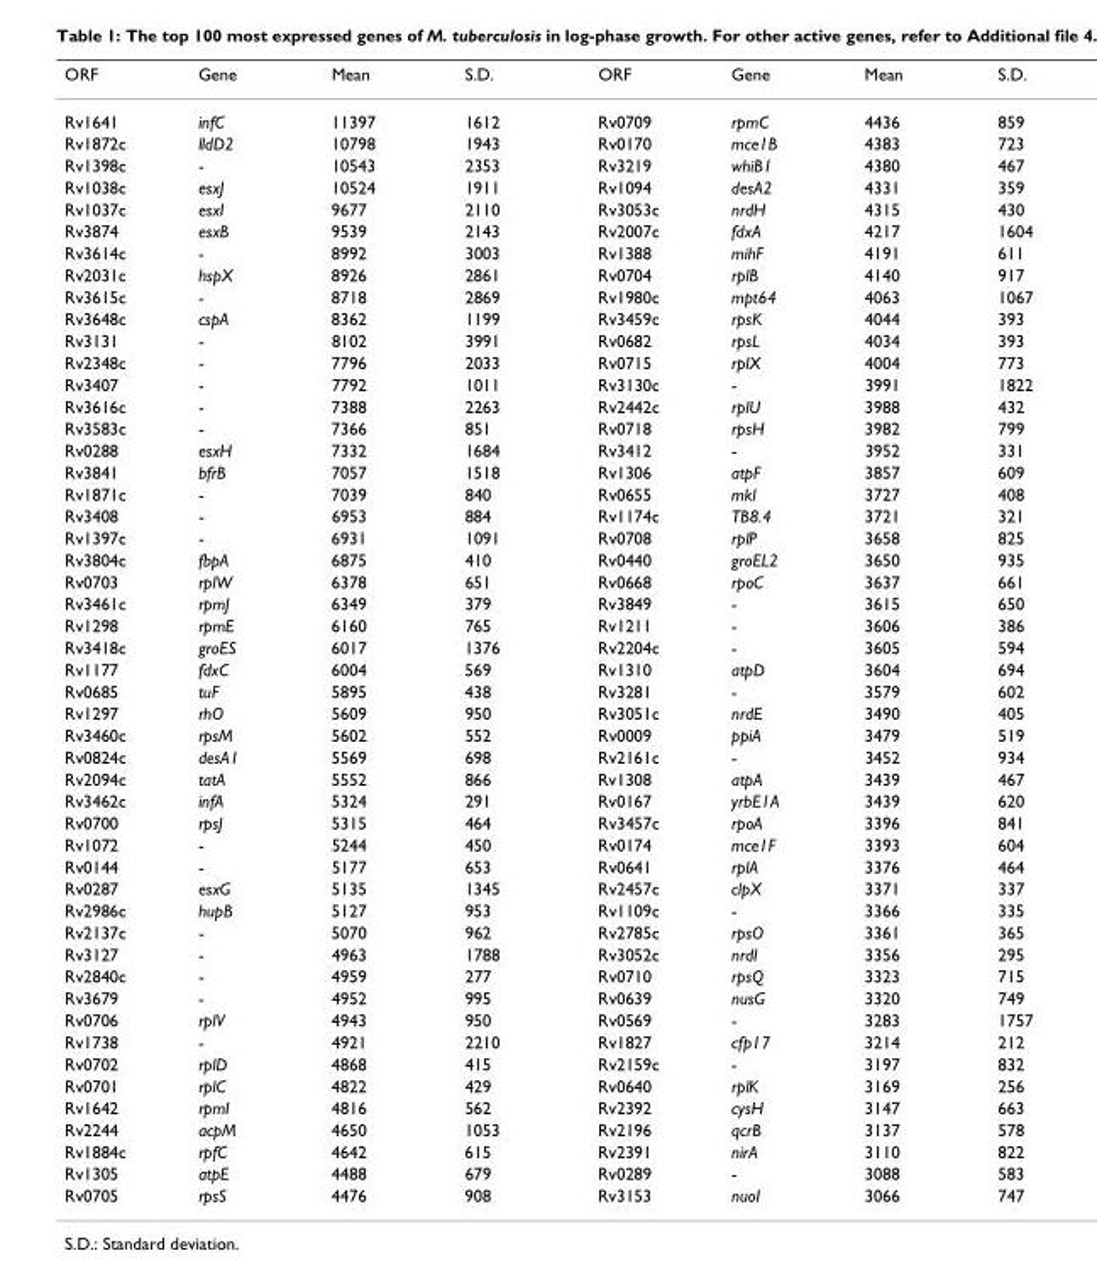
<table><thead><tr><td>ORF</td><td>Gene</td><td>Mean</td><td>S.D.</td><td>ORF</td><td>Gene</td><td>Mean</td><td>S.D.</td></tr></thead><tbody><tr><td>Rv1641</td><td>infC</td><td>11397</td><td>1612</td><td>Rv0709</td><td>rpmC</td><td>4436</td><td>859</td></tr><tr><td>Rv1872c</td><td>lldD2</td><td>10798</td><td>1943</td><td>Rv0170</td><td>mce1B</td><td>4383</td><td>723</td></tr><tr><td>Rv1398c</td><td>-</td><td>10543</td><td>2353</td><td>Rv3219</td><td>whiB1</td><td>4380</td><td>467</td></tr><tr><td>Rv1038c</td><td>esxJ</td><td>10524</td><td>1911</td><td>Rv1094</td><td>desA2</td><td>4331</td><td>359</td></tr><tr><td>Rv1037c</td><td>esxI</td><td>9677</td><td>2110</td><td>Rv3053c</td><td>nrdH</td><td>4315</td><td>430</td></tr><tr><td>Rv3874</td><td>esxB</td><td>9539</td><td>2143</td><td>Rv2007c</td><td>fdxA</td><td>4217</td><td>1604</td></tr><tr><td>Rv3614c</td><td>-</td><td>8992</td><td>3003</td><td>Rv1388</td><td>mihF</td><td>4191</td><td>611</td></tr><tr><td>Rv2031c</td><td>hspX</td><td>8926</td><td>2861</td><td>Rv0704</td><td>rplB</td><td>4140</td><td>917</td></tr><tr><td>Rv3615c</td><td>-</td><td>8718</td><td>2869</td><td>Rv1980c</td><td>mpt64</td><td>4063</td><td>1067</td></tr><tr><td>Rv3648c</td><td>cspA</td><td>8362</td><td>1199</td><td>Rv3459c</td><td>rpsK</td><td>4044</td><td>393</td></tr><tr><td>Rv3131</td><td>-</td><td>8102</td><td>3991</td><td>Rv0682</td><td>rpsL</td><td>4034</td><td>393</td></tr><tr><td>Rv2348c</td><td>-</td><td>7796</td><td>2033</td><td>Rv0715</td><td>rplX</td><td>4004</td><td>773</td></tr><tr><td>Rv3407</td><td>-</td><td>7792</td><td>1011</td><td>Rv3130c</td><td>-</td><td>3991</td><td>1822</td></tr><tr><td>Rv3616c</td><td>-</td><td>7388</td><td>2263</td><td>Rv2442c</td><td>rplU</td><td>3988</td><td>432</td></tr><tr><td>Rv3583c</td><td>-</td><td>7366</td><td>851</td><td>Rv0718</td><td>rpsH</td><td>3982</td><td>799</td></tr><tr><td>Rv0288</td><td>esxH</td><td>7332</td><td>1684</td><td>Rv3412</td><td>-</td><td>3952</td><td>331</td></tr><tr><td>Rv3841</td><td>bfrB</td><td>7057</td><td>1518</td><td>Rv1306</td><td>atpF</td><td>3857</td><td>609</td></tr><tr><td>Rv1871c</td><td>-</td><td>7039</td><td>840</td><td>Rv0655</td><td>mkl</td><td>3727</td><td>408</td></tr><tr><td>Rv3408</td><td>-</td><td>6953</td><td>884</td><td>Rv1174c</td><td>TB8.4</td><td>3721</td><td>321</td></tr><tr><td>Rv1397c</td><td>-</td><td>6931</td><td>1091</td><td>Rv0708</td><td>rplP</td><td>3658</td><td>825</td></tr><tr><td>Rv3804c</td><td>fbpA</td><td>6875</td><td>410</td><td>Rv0440</td><td>groEL2</td><td>3650</td><td>935</td></tr><tr><td>Rv0703</td><td>rplW</td><td>6378</td><td>651</td><td>Rv0668</td><td>rpoC</td><td>3637</td><td>661</td></tr><tr><td>Rv3461c</td><td>rpmJ</td><td>6349</td><td>379</td><td>Rv3849</td><td>-</td><td>3615</td><td>650</td></tr><tr><td>Rv1298</td><td>rpmE</td><td>6160</td><td>765</td><td>Rv1211</td><td>-</td><td>3606</td><td>386</td></tr><tr><td>Rv3418c</td><td>groES</td><td>6017</td><td>1376</td><td>Rv2204c</td><td>-</td><td>3605</td><td>594</td></tr><tr><td>Rv1177</td><td>fdxC</td><td>6004</td><td>569</td><td>Rv1310</td><td>atpD</td><td>3604</td><td>694</td></tr><tr><td>Rv0685</td><td>tuF</td><td>5895</td><td>438</td><td>Rv3281</td><td>-</td><td>3579</td><td>602</td></tr><tr><td>Rv1297</td><td>rhO</td><td>5609</td><td>950</td><td>Rv3051c</td><td>nrdE</td><td>3490</td><td>405</td></tr><tr><td>Rv3460c</td><td>rpsM</td><td>5602</td><td>552</td><td>Rv0009</td><td>ppiA</td><td>3479</td><td>519</td></tr><tr><td>Rv0824c</td><td>desA1</td><td>5569</td><td>698</td><td>Rv2161c</td><td>-</td><td>3452</td><td>934</td></tr><tr><td>Rv2094c</td><td>tatA</td><td>5552</td><td>866</td><td>Rv1308</td><td>atpA</td><td>3439</td><td>467</td></tr><tr><td>Rv3462c</td><td>infA</td><td>5324</td><td>291</td><td>Rv0167</td><td>yrbE1A</td><td>3439</td><td>620</td></tr><tr><td>Rv0700</td><td>rpsJ</td><td>5315</td><td>464</td><td>Rv3457c</td><td>rpoA</td><td>3396</td><td>841</td></tr><tr><td>Rv1072</td><td>-</td><td>5244</td><td>450</td><td>Rv0174</td><td>mce1F</td><td>3393</td><td>604</td></tr><tr><td>Rv0144</td><td>-</td><td>5177</td><td>653</td><td>Rv0641</td><td>rplA</td><td>3376</td><td>464</td></tr><tr><td>Rv0287</td><td>esxG</td><td>5135</td><td>1345</td><td>Rv2457c</td><td>clpX</td><td>3371</td><td>337</td></tr><tr><td>Rv2986c</td><td>hupB</td><td>5127</td><td>953</td><td>Rv1109c</td><td>-</td><td>3366</td><td>335</td></tr><tr><td>Rv2137c</td><td>-</td><td>5070</td><td>962</td><td>Rv2785c</td><td>rpsO</td><td>3361</td><td>365</td></tr><tr><td>Rv3127</td><td>-</td><td>4963</td><td>1788</td><td>Rv3052c</td><td>nrdI</td><td>3356</td><td>295</td></tr><tr><td>Rv2840c</td><td>-</td><td>4959</td><td>277</td><td>Rv0710</td><td>rpsQ</td><td>3323</td><td>715</td></tr><tr><td>Rv3679</td><td>-</td><td>4952</td><td>995</td><td>Rv0639</td><td>nusG</td><td>3320</td><td>749</td></tr><tr><td>Rv0706</td><td>rplV</td><td>4943</td><td>950</td><td>Rv0569</td><td>-</td><td>3283</td><td>1757</td></tr><tr><td>Rv1738</td><td>-</td><td>4921</td><td>2210</td><td>Rv1827</td><td>cfp17</td><td>3214</td><td>212</td></tr><tr><td>Rv0702</td><td>rplD</td><td>4868</td><td>415</td><td>Rv2159c</td><td>-</td><td>3197</td><td>832</td></tr><tr><td>Rv0701</td><td>rplC</td><td>4822</td><td>429</td><td>Rv0640</td><td>rplK</td><td>3169</td><td>256</td></tr><tr><td>Rv1642</td><td>rpmI</td><td>4816</td><td>562</td><td>Rv2392</td><td>cysH</td><td>3147</td><td>663</td></tr><tr><td>Rv2244</td><td>acpM</td><td>4650</td><td>1053</td><td>Rv2196</td><td>qcrB</td><td>3137</td><td>578</td></tr><tr><td>Rv1884c</td><td>rpfC</td><td>4642</td><td>615</td><td>Rv2391</td><td>nirA</td><td>3110</td><td>822</td></tr><tr><td>Rv1305</td><td>atpE</td><td>4488</td><td>679</td><td>Rv0289</td><td>-</td><td>3088</td><td>583</td></tr><tr><td>Rv0705</td><td>rpsS</td><td>4476</td><td>908</td><td>Rv3153</td><td>nuoI</td><td>3066</td><td>747</td></tr></tbody></table>